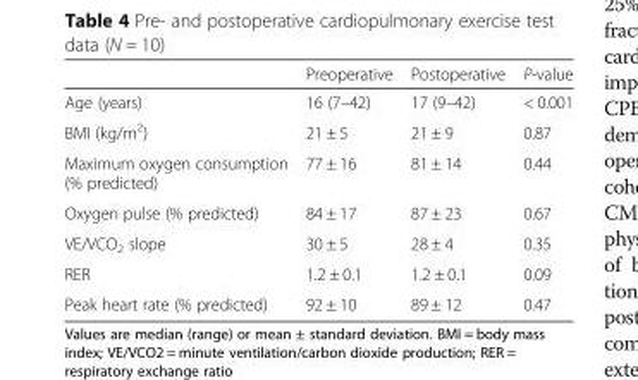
<table><thead><tr><td></td><td>Preoperative</td><td>Postoperative</td><td>P-value</td></tr></thead><tbody><tr><td>Age (years)</td><td>16 (7–42)</td><td>17 (9–42)</td><td>&lt; 0.001</td></tr><tr><td>BMI (kg/m<sup>2</sup>)</td><td>21 ± 5</td><td>21 ± 9</td><td>0.87</td></tr><tr><td>Maximum oxygen consumption (% predicted)</td><td>77 ± 16</td><td>81 ± 14</td><td>0.44</td></tr><tr><td>Oxygen pulse (% predicted)</td><td>84 ± 17</td><td>87 ± 23</td><td>0.67</td></tr><tr><td>VE/VCO<sub>2</sub> slope</td><td>30 ± 5</td><td>28 ± 4</td><td>0.35</td></tr><tr><td>RER</td><td>1.2 ± 0.1</td><td>1.2 ± 0.1</td><td>0.09</td></tr><tr><td>Peak heart rate (% predicted)</td><td>92 ± 10</td><td>89 ± 12</td><td>0.47</td></tr></tbody></table>